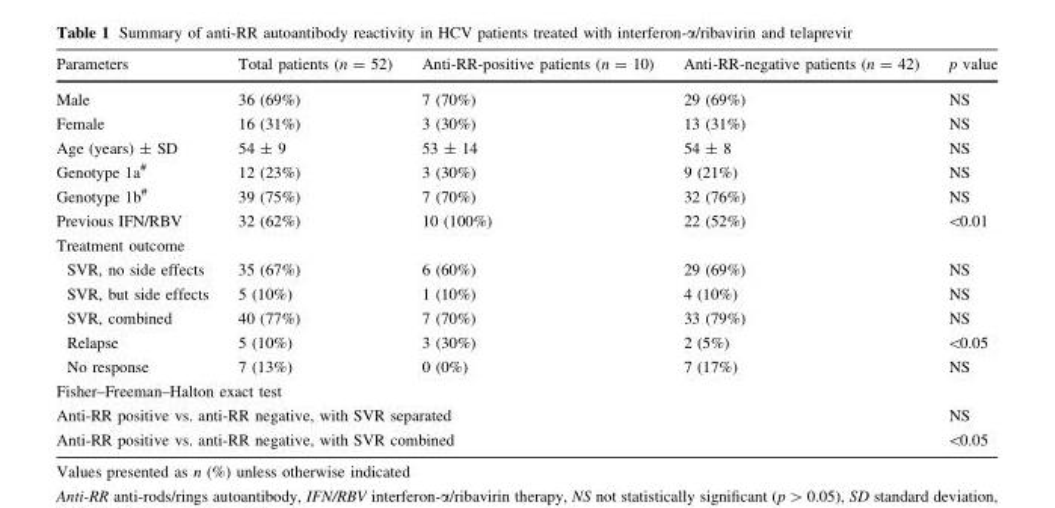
<table><thead><tr><td>Parameters</td><td>Total patients (n = 52)</td><td>Anti-RR-positive patients (n = 10)</td><td>Anti-RR-negative patients (n = 42)</td><td>p value</td></tr></thead><tbody><tr><td>Male</td><td>36 (69%)</td><td>7 (70%)</td><td>29 (69%)</td><td>NS</td></tr><tr><td>Female</td><td>16 (31%)</td><td>3 (30%)</td><td>13 (31%)</td><td>NS</td></tr><tr><td>Age (years) ± SD</td><td>54 ± 9</td><td>53 ± 14</td><td>54 ± 8</td><td>NS</td></tr><tr><td>Genotype 1a<sup>#</sup></td><td>12 (23%)</td><td>3 (30%)</td><td>9 (21%)</td><td>NS</td></tr><tr><td>Genotype 1b<sup>#</sup></td><td>39 (75%)</td><td>7 (70%)</td><td>32 (76%)</td><td>NS</td></tr><tr><td>Previous IFN/RBV</td><td>32 (62%)</td><td>10 (100%)</td><td>22 (52%)</td><td>&lt;0.01</td></tr><tr><td colspan="5">Treatment outcome</td></tr><tr><td>SVR, no side effects</td><td>35 (67%)</td><td>6 (60%)</td><td>29 (69%)</td><td>NS</td></tr><tr><td>SVR, but side effects</td><td>5 (10%)</td><td>1 (10%)</td><td>4 (10%)</td><td>NS</td></tr><tr><td>SVR, combined</td><td>40 (77%)</td><td>7 (70%)</td><td>33 (79%)</td><td>NS</td></tr><tr><td>Relapse</td><td>5 (10%)</td><td>3 (30%)</td><td>2 (5%)</td><td>&lt;0.05</td></tr><tr><td>No response</td><td>7 (13%)</td><td>0 (0%)</td><td>7 (17%)</td><td>NS</td></tr><tr><td colspan="5">Fisher–Freeman–Halton exact test</td></tr><tr><td colspan="3">Anti-RR positive vs. anti-RR negative, with SVR separated</td><td></td><td>NS</td></tr><tr><td colspan="3">Anti-RR positive vs. anti-RR negative, with SVR combined</td><td></td><td>&lt;0.05</td></tr></tbody></table>